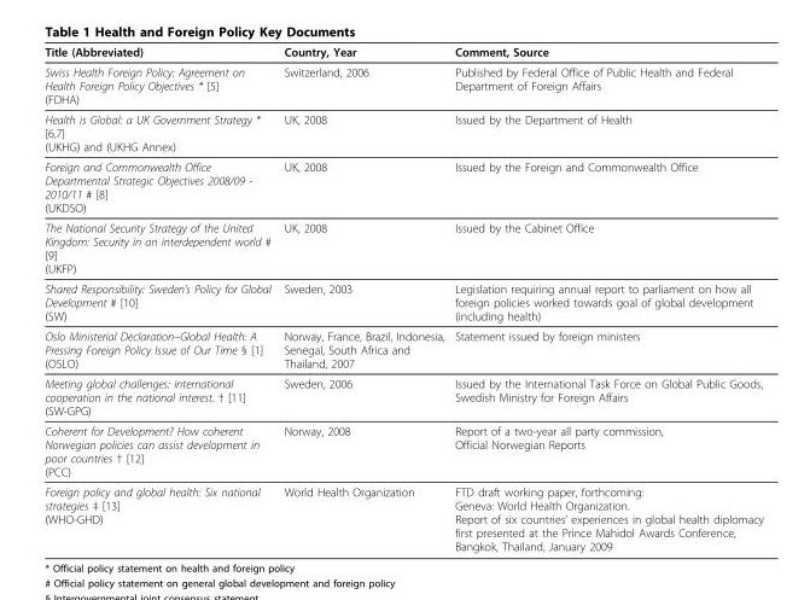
<table><thead><tr><td>Title (Abbreviated)</td><td>Country, Year</td><td>Comment, Source</td></tr></thead><tbody><tr><td>Swiss Health Foreign Policy: Agreement on Health Foreign Policy Objectives * [5] (FDHA)</td><td>Switzerland, 2006</td><td>Published by Federal Office of Public Health and Federal Department of Foreign Affairs</td></tr><tr><td>Health is Global: a UK Government Strategy * [6,7] (UKHG) and (UKHG Annex)</td><td>UK, 2008</td><td>Issued by the Department of Health</td></tr><tr><td>Foreign and Commonwealth Office Departmental Strategic Objectives 2008/09 - 2010/11 # [8] (UKDSO)</td><td>UK, 2008</td><td>Issued by the Foreign and Commonwealth Office</td></tr><tr><td>The National Security Strategy of the United Kingdom: Security in an interdependent world # [9] (UKFP)</td><td>UK, 2008</td><td>Issued by the Cabinet Office</td></tr><tr><td>Shared Responsibility: Sweden’s Policy for Global Development # [10] (SW)</td><td>Sweden, 2003</td><td>Legislation requiring annual report to parliament on how all foreign policies worked towards goal of global development (including health)</td></tr><tr><td>Oslo Ministerial Declaration–Global Health: A Pressing Foreign Policy Issue of Our Time § [1] (OSLO)</td><td>Norway, France, Brazil, Indonesia, Senegal, South Africa and Thailand, 2007</td><td>Statement issued by foreign ministers</td></tr><tr><td>Meeting global challenges: international cooperation in the national interest. † [11] (SW-GPG)</td><td>Sweden, 2006</td><td>Issued by the International Task Force on Global Public Goods, Swedish Ministry for Foreign Affairs</td></tr><tr><td>Coherent for Development? How coherent Norwegian policies can assist development in poor countries † [12] (PCC)</td><td>Norway, 2008</td><td>Report of a two-year all party commission, Official Norwegian Reports</td></tr><tr><td>Foreign policy and global health: Six national strategies ‡ [13] (WHO-GHD)</td><td>World Health Organization</td><td>FTD draft working paper, forthcoming: Geneva: World Health Organization. Report of six countries’ experiences in global health diplomacy first presented at the Prince Mahidol Awards Conference, Bangkok, Thailand, January 2009</td></tr></tbody></table>